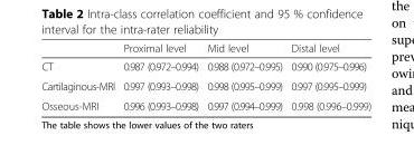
<table><thead><tr><td></td><td>Proximal level</td><td>Mid level</td><td>Distal level</td></tr></thead><tbody><tr><td>CT</td><td>0.987 (0.972–0.994)</td><td>0.988 (0.972–0.995)</td><td>0.990 (0.975–0.996)</td></tr><tr><td>Cartilaginous-MRI</td><td>0.997 (0.993–0.998)</td><td>0.998 (0.995–0.999)</td><td>0.997 (0.995–0.999)</td></tr><tr><td>Osseous-MRI</td><td>0.996 (0.993–0.998)</td><td>0.997 (0.994–0.999)</td><td>0.998 (0.996–0.999)</td></tr></tbody></table>